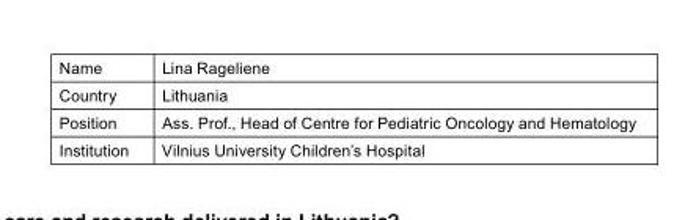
<table><tbody><tr><td>Name</td><td>Lina Rageliene</td></tr><tr><td>Country</td><td>Lithuania</td></tr><tr><td>Position</td><td>Ass. Prof., Head of Centre for Pediatric Oncology and Hematology</td></tr><tr><td>Institution</td><td>Vilnius University Children’s Hospital</td></tr></tbody></table>